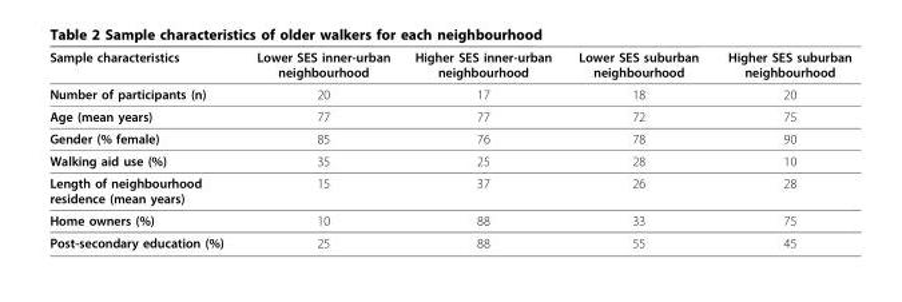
<table><thead><tr><td>Sample characteristics</td><td>Lower SES inner-urban neighbourhood</td><td>Higher SES inner-urban neighbourhood</td><td>Lower SES suburban neighbourhood</td><td>Higher SES suburban neighbourhood</td></tr></thead><tbody><tr><td>Number of participants (n)</td><td>20</td><td>17</td><td>18</td><td>20</td></tr><tr><td>Age (mean years)</td><td>77</td><td>77</td><td>72</td><td>75</td></tr><tr><td>Gender (% female)</td><td>85</td><td>76</td><td>78</td><td>90</td></tr><tr><td>Walking aid use (%)</td><td>35</td><td>25</td><td>28</td><td>10</td></tr><tr><td>Length of neighbourhood residence (mean years)</td><td>15</td><td>37</td><td>26</td><td>28</td></tr><tr><td>Home owners (%)</td><td>10</td><td>88</td><td>33</td><td>75</td></tr><tr><td>Post-secondary education (%)</td><td>25</td><td>88</td><td>55</td><td>45</td></tr></tbody></table>